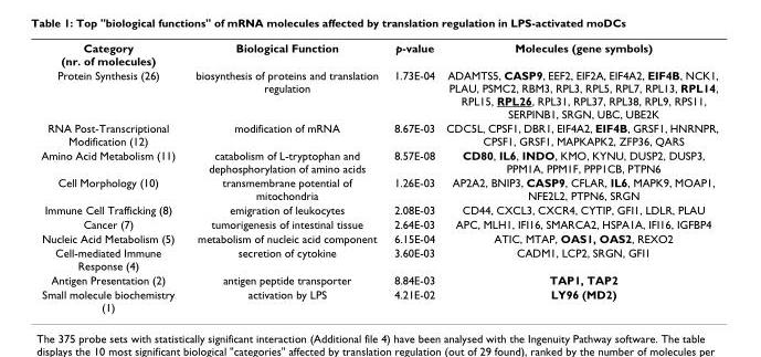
<table><tbody><tr><td>Category (nr. of molecules)</td><td>Biological Function</td><td>p-value</td><td>Molecules (gene symbols)</td></tr><tr><td>Protein Synthesis (26)</td><td>biosynthesis of proteins and translation regulation</td><td>1.73E-04</td><td>ADAMTS5, CASP9, EEF2, EIF2A, EIF4A2, EIF4B, NCK1, PLAU, PSMC2, RBM3, RPL3, RPL5, RPL7, RPL13, RPL14, RPL15, RPL26, RPL31, RPL37, RPL38, RPL9, RPS11, SERPINB1, SRGN, UBC, UBE2K</td></tr><tr><td>RNA Post-Transcriptional Modification (12)</td><td>modification of mRNA</td><td>8.67E-03</td><td>CDC5L, CPSF1, DBR1, EIF4A2, EIF4B, GRSF1, HNRNPR, CPSF1, GRSF1, MAPKAPK2, ZFP36, QARS</td></tr><tr><td>Amino Acid Metabolism (11)</td><td>catabolism of L-tryptophan and dephosphorylation of amino acids</td><td>8.57E-08</td><td>CD80, IL6, INDO, KMO, KYNU, DUSP2, DUSP3, PPM1A, PPM1F, PPP1CB, PTPN6</td></tr><tr><td>Cell Morphology (10)</td><td>transmembrane potential of mitochondria</td><td>1.26E-03</td><td>AP2A2, BNIP3, CASP9, CFLAR, IL6, MAPK9, MOAP1, NFE2L2, PTPN6, SRGN</td></tr><tr><td>Immune Cell Trafficking (8)</td><td>emigration of leukocytes</td><td>2.08E-03</td><td>CD44, CXCL3, CXCR4, CYTIP, GFI1, LDLR, PLAU</td></tr><tr><td>Cancer (7)</td><td>tumorigenesis of intestinal tissue</td><td>2.64E-03</td><td>APC, MLH1, IFI16, SMARCA2, HSPA1A, IFI16, IGFBP4</td></tr><tr><td>Nucleic Acid Metabolism (5)</td><td>metabolism of nucleic acid component</td><td>6.15E-04</td><td>ATIC, MTAP, OAS1, OAS2, REXO2</td></tr><tr><td>Cell-mediated Immune Response (4)</td><td>secretion of cytokine</td><td>3.60E-03</td><td>CADM1, LCP2, SRGN, GFI1</td></tr><tr><td>Antigen Presentation (2)</td><td>antigen peptide transporter</td><td>8.84E-03</td><td>TAP1, TAP2</td></tr><tr><td>Small molecule biochemistry (1)</td><td>activation by LPS</td><td>4.21E-02</td><td>LY96 (MD2)</td></tr></tbody></table>